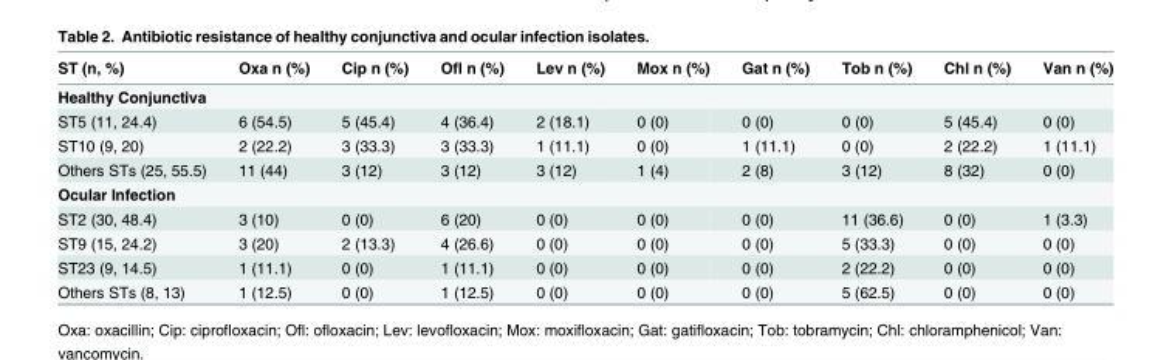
<table><thead><tr><td>ST (n, %)</td><td>Oxa n (%)</td><td>Cip n (%)</td><td>Ofl n (%)</td><td>Lev n (%)</td><td>Mox n (%)</td><td>Gat n (%)</td><td>Tob n (%)</td><td>Chl n (%)</td><td>Van n (%)</td></tr></thead><tbody><tr><td colspan="10">Healthy Conjunctiva</td></tr><tr><td>ST5 (11, 24.4)</td><td>6 (54.5)</td><td>5 (45.4)</td><td>4 (36.4)</td><td>2 (18.1)</td><td>0 (0)</td><td>0 (0)</td><td>0 (0)</td><td>5 (45.4)</td><td>0 (0)</td></tr><tr><td>ST10 (9, 20)</td><td>2 (22.2)</td><td>3 (33.3)</td><td>3 (33.3)</td><td>1 (11.1)</td><td>0 (0)</td><td>1 (11.1)</td><td>0 (0)</td><td>2 (22.2)</td><td>1 (11.1)</td></tr><tr><td>Others STs (25, 55.5)</td><td>11 (44)</td><td>3 (12)</td><td>3 (12)</td><td>3 (12)</td><td>1 (4)</td><td>2 (8)</td><td>3 (12)</td><td>8 (32)</td><td>0 (0)</td></tr><tr><td colspan="10">Ocular Infection</td></tr><tr><td>ST2 (30, 48.4)</td><td>3 (10)</td><td>0 (0)</td><td>6 (20)</td><td>0 (0)</td><td>0 (0)</td><td>0 (0)</td><td>11 (36.6)</td><td>0 (0)</td><td>1 (3.3)</td></tr><tr><td>ST9 (15, 24.2)</td><td>3 (20)</td><td>2 (13.3)</td><td>4 (26.6)</td><td>0 (0)</td><td>0 (0)</td><td>0 (0)</td><td>5 (33.3)</td><td>0 (0)</td><td>0 (0)</td></tr><tr><td>ST23 (9, 14.5)</td><td>1 (11.1)</td><td>0 (0)</td><td>1 (11.1)</td><td>0 (0)</td><td>0 (0)</td><td>0 (0)</td><td>2 (22.2)</td><td>0 (0)</td><td>0 (0)</td></tr><tr><td>Others STs (8, 13)</td><td>1 (12.5)</td><td>0 (0)</td><td>1 (12.5)</td><td>0 (0)</td><td>0 (0)</td><td>0 (0)</td><td>5 (62.5)</td><td>0 (0)</td><td>0 (0)</td></tr></tbody></table>